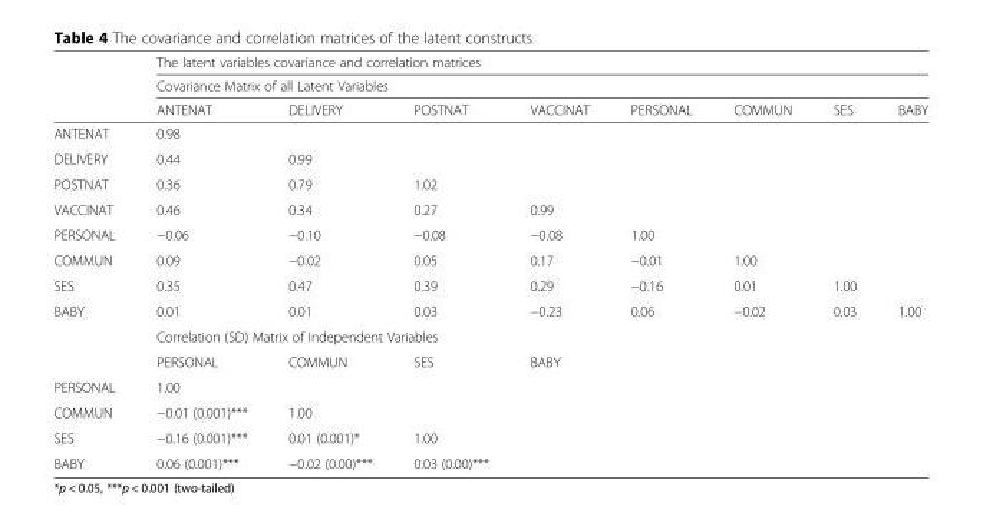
<table><thead><tr><td rowspan="3"></td><td rowspan="2" colspan="8">The latent variables covariance and correlation matrices Covariance Matrix of all Latent Variables</td></tr><tr></tr><tr><td>ANTENAT</td><td>DELIVERY</td><td>POSTNAT</td><td>VACCINAT</td><td>PERSONAL</td><td>COMMUN</td><td>SES</td><td>BABY</td></tr></thead><tbody><tr><td>ANTENAT</td><td>0.98</td><td></td><td></td><td></td><td></td><td></td><td></td><td></td></tr><tr><td>DELIVERY</td><td>0.44</td><td>0.99</td><td></td><td></td><td></td><td></td><td></td><td></td></tr><tr><td>POSTNAT</td><td>0.36</td><td>0.79</td><td>1.02</td><td></td><td></td><td></td><td></td><td></td></tr><tr><td>VACCINAT</td><td>0.46</td><td>0.34</td><td>0.27</td><td>0.99</td><td></td><td></td><td></td><td></td></tr><tr><td>PERSONAL</td><td>−0.06</td><td>−0.10</td><td>−0.08</td><td>−0.08</td><td>1.00</td><td></td><td></td><td></td></tr><tr><td>COMMUN</td><td>0.09</td><td>−0.02</td><td>0.05</td><td>0.17</td><td>−0.01</td><td>1.00</td><td></td><td></td></tr><tr><td>SES</td><td>0.35</td><td>0.47</td><td>0.39</td><td>0.29</td><td>−0.16</td><td>0.01</td><td>1.00</td><td></td></tr><tr><td rowspan="3">BABY</td><td>0.01</td><td>0.01</td><td>0.03</td><td>−0.23</td><td>0.06</td><td>−0.02</td><td>0.03</td><td>1.00</td></tr><tr><td colspan="8">Correlation (SD) Matrix of Independent Variables</td></tr><tr><td>PERSONAL</td><td>COMMUN</td><td>SES</td><td>BABY</td><td></td><td></td><td></td><td></td></tr><tr><td>PERSONAL</td><td>1.00</td><td></td><td></td><td></td><td></td><td></td><td></td><td></td></tr><tr><td>COMMUN</td><td>−0.01 (0.001)***</td><td>1.00</td><td></td><td></td><td></td><td></td><td></td><td></td></tr><tr><td>SES</td><td>−0.16 (0.001)***</td><td>0.01 (0.001)*</td><td>1.00</td><td></td><td></td><td></td><td></td><td></td></tr><tr><td>BABY</td><td>0.06 (0.001)***</td><td>−0.02 (0.00)***</td><td>0.03 (0.00)***</td><td></td><td></td><td></td><td></td><td></td></tr></tbody></table>